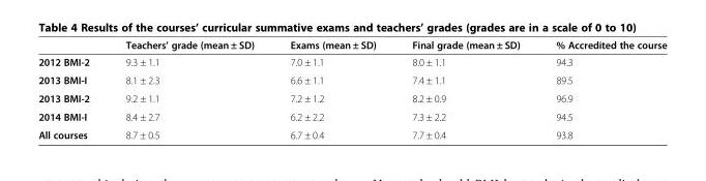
<table><thead><tr><td></td><td>Teachers’ grade (mean ± SD)</td><td>Exams (mean ± SD)</td><td>Final grade (mean ± SD)</td><td>% Accredited the course</td></tr></thead><tbody><tr><td>2012 BMI-2</td><td>9.3 ± 1.1</td><td>7.0 ± 1.1</td><td>8.0 ± 1.1</td><td>94.3</td></tr><tr><td>2013 BMI-I</td><td>8.1 ± 2.3</td><td>6.6 ± 1.1</td><td>7.4 ± 1.1</td><td>89.5</td></tr><tr><td>2013 BMI-2</td><td>9.2 ± 1.1</td><td>7.2 ± 1.2</td><td>8.2 ± 0.9</td><td>96.9</td></tr><tr><td>2014 BMI-I</td><td>8.4 ± 2.7</td><td>6.2 ± 2.2</td><td>7.3 ± 2.2</td><td>94.5</td></tr><tr><td>All courses</td><td>8.7 ± 0.5</td><td>6.7 ± 0.4</td><td>7.7 ± 0.4</td><td>93.8</td></tr></tbody></table>